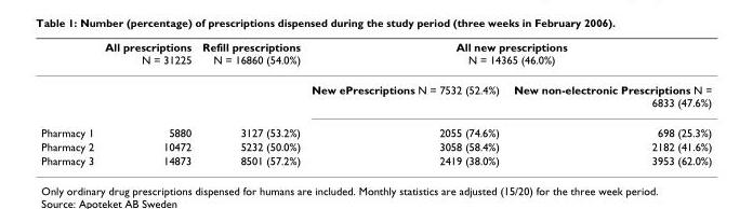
<table><thead><tr><td rowspan="2"></td><td rowspan="2">All prescriptions N = 31225</td><td rowspan="2">Refill prescriptions N = 16860 (54.0%)</td><td colspan="2">All new prescriptions N = 14365 (46.0%)</td></tr><tr><td>New ePrescriptions N = 7532 (52.4%)</td><td>New non-electronic Prescriptions N = 6833 (47.6%)</td></tr></thead><tbody><tr><td>Pharmacy 1</td><td>5880</td><td>3127 (53.2%)</td><td>2055 (74.6%)</td><td>698 (25.3%)</td></tr><tr><td>Pharmacy 2</td><td>10472</td><td>5232 (50.0%)</td><td>3058 (58.4%)</td><td>2182 (41.6%)</td></tr><tr><td>Pharmacy 3</td><td>14873</td><td>8501 (57.2%)</td><td>2419 (38.0%)</td><td>3953 (62.0%)</td></tr></tbody></table>